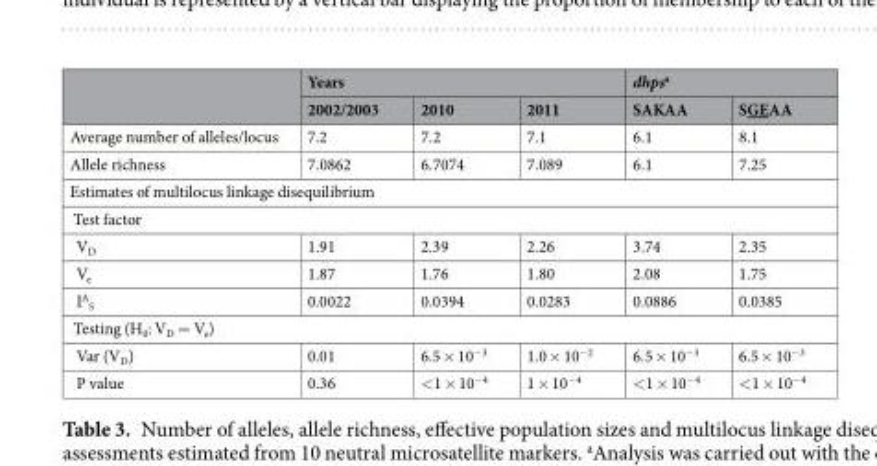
<table><thead><tr><td rowspan="2"></td><td colspan="3">Years</td><td colspan="2">dhps<sup>a</sup></td></tr><tr><td>2002/2003</td><td>2010</td><td>2011</td><td>SAKAA</td><td>SGEAA</td></tr></thead><tbody><tr><td>Average number of alleles/locus</td><td>7.2</td><td>7.2</td><td>7.1</td><td>6.1</td><td>8.1</td></tr><tr><td>Allele richness</td><td>7.0862</td><td>6.7074</td><td>7.089</td><td>6.1</td><td>7.25</td></tr><tr><td colspan="6">Estimates of multilocus linkage disequilibrium</td></tr><tr><td colspan="6">Test factor</td></tr><tr><td>V<sub>D</sub></td><td>1.91</td><td>2.39</td><td>2.26</td><td>3.74</td><td>2.35</td></tr><tr><td>V<sub>e</sub></td><td>1.87</td><td>1.76</td><td>1.80</td><td>2.08</td><td>1.75</td></tr><tr><td>I<sup>A</sup> <sub>S</sub></td><td>0.0022</td><td>0.0394</td><td>0.0283</td><td>0.0886</td><td>0.0385</td></tr><tr><td colspan="6">Testing (H<sub>0</sub>: V<sub>D</sub> = V<sub>e</sub>)</td></tr><tr><td>Var (V<sub>D</sub>)</td><td>0.01</td><td>6.5 × 10<sup>−3</sup></td><td>1.0 × 10<sup>−2</sup></td><td>6.5 × 10<sup>−3</sup></td><td>6.5 × 10<sup>−3</sup></td></tr><tr><td>P value</td><td>0.36</td><td>&lt;1 × 10<sup>−4</sup></td><td>1 × 10<sup>−4</sup></td><td>&lt;1 × 10<sup>−4</sup></td><td>&lt;1 × 10<sup>−4</sup></td></tr></tbody></table>